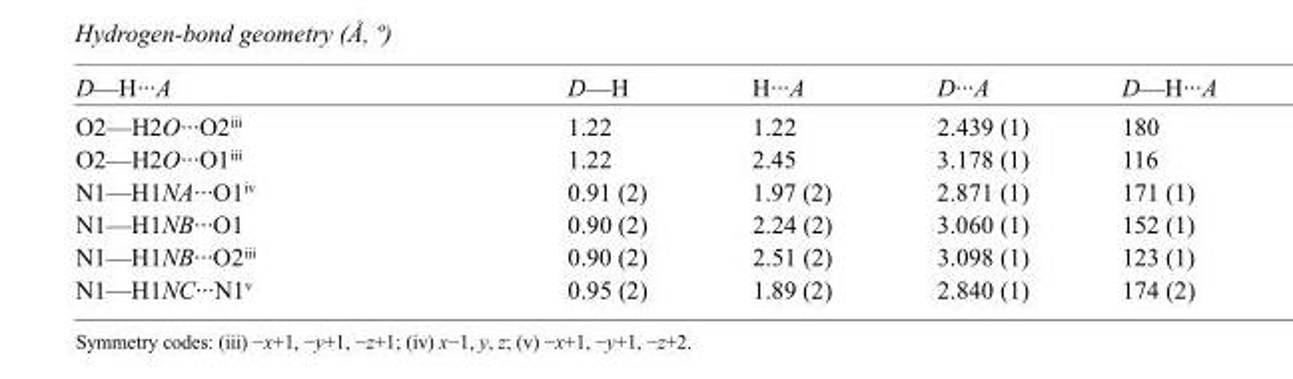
<table><tbody><tr><td>D—H···A</td><td>D—H</td><td>H···A</td><td>D···A</td><td>D—H···A</td></tr><tr><td>O2—H2O···O2<sup>iii</sup></td><td>1.22</td><td>1.22</td><td>2.439 (1)</td><td>180</td></tr><tr><td>O2—H2O···O1<sup>iii</sup></td><td>1.22</td><td>2.45</td><td>3.178 (1)</td><td>116</td></tr><tr><td>N1—H1NA···O1<sup>iv</sup></td><td>0.91 (2)</td><td>1.97 (2)</td><td>2.871 (1)</td><td>171 (1)</td></tr><tr><td>N1—H1NB···O1</td><td>0.90 (2)</td><td>2.24 (2)</td><td>3.060 (1)</td><td>152 (1)</td></tr><tr><td>N1—H1NB···O2<sup>iii</sup></td><td>0.90 (2)</td><td>2.51 (2)</td><td>3.098 (1)</td><td>123 (1)</td></tr><tr><td>N1—H1NC···N1<sup>v</sup></td><td>0.95 (2)</td><td>1.89 (2)</td><td>2.840 (1)</td><td>174 (2)</td></tr></tbody></table>